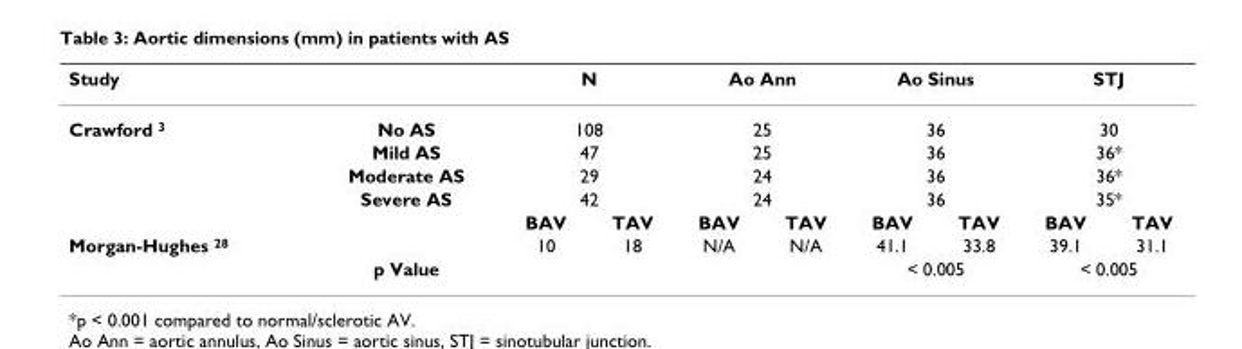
<table><thead><tr><td>Study</td><td></td><td colspan="2">N</td><td colspan="2">Ao Ann</td><td colspan="2">Ao Sinus</td><td colspan="2">STJ</td></tr></thead><tbody><tr><td rowspan="5">Crawford <sup>3</sup></td><td>No AS</td><td colspan="2">108</td><td colspan="2">25</td><td colspan="2">36</td><td colspan="2">30</td></tr><tr><td>Mild AS</td><td colspan="2">47</td><td colspan="2">25</td><td colspan="2">36</td><td colspan="2">36*</td></tr><tr><td>Moderate AS</td><td colspan="2">29</td><td colspan="2">24</td><td colspan="2">36</td><td colspan="2">36*</td></tr><tr><td>Severe AS</td><td colspan="2">42</td><td colspan="2">24</td><td colspan="2">36</td><td colspan="2">35*</td></tr><tr><td></td><td>BAV</td><td>TAV</td><td>BAV</td><td>TAV</td><td>BAV</td><td>TAV</td><td>BAV</td><td>TAV</td></tr><tr><td rowspan="2">Morgan-Hughes <sup>28</sup></td><td></td><td>10</td><td>18</td><td>N/A</td><td>N/A</td><td>41.1</td><td>33.8</td><td>39.1</td><td>31.1</td></tr><tr><td>p Value</td><td></td><td></td><td></td><td></td><td colspan="2">&lt; 0.005</td><td colspan="2">&lt; 0.005</td></tr></tbody></table>